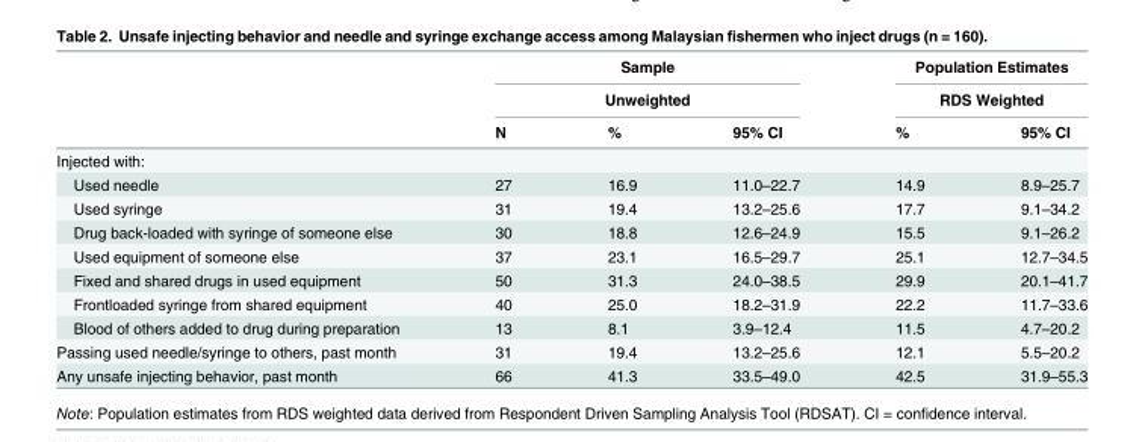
<table><thead><tr><td rowspan="3"></td><td rowspan="2" colspan="3">Sample Unweighted</td><td rowspan="2" colspan="2">Population Estimates RDS Weighted</td></tr><tr></tr><tr><td>N</td><td>%</td><td>95% CI</td><td>%</td><td>95% CI</td></tr></thead><tbody><tr><td colspan="6">Injected with:</td></tr><tr><td>Used needle</td><td>27</td><td>16.9</td><td>11.0–22.7</td><td>14.9</td><td>8.9–25.7</td></tr><tr><td>Used syringe</td><td>31</td><td>19.4</td><td>13.2–25.6</td><td>17.7</td><td>9.1–34.2</td></tr><tr><td>Drug back-loaded with syringe of someone else</td><td>30</td><td>18.8</td><td>12.6–24.9</td><td>15.5</td><td>9.1–26.2</td></tr><tr><td>Used equipment of someone else</td><td>37</td><td>23.1</td><td>16.5–29.7</td><td>25.1</td><td>12.7–34.5</td></tr><tr><td>Fixed and shared drugs in used equipment</td><td>50</td><td>31.3</td><td>24.0–38.5</td><td>29.9</td><td>20.1–41.7</td></tr><tr><td>Frontloaded syringe from shared equipment</td><td>40</td><td>25.0</td><td>18.2–31.9</td><td>22.2</td><td>11.7–33.6</td></tr><tr><td>Blood of others added to drug during preparation</td><td>13</td><td>8.1</td><td>3.9–12.4</td><td>11.5</td><td>4.7–20.2</td></tr><tr><td>Passing used needle/syringe to others, past month</td><td>31</td><td>19.4</td><td>13.2–25.6</td><td>12.1</td><td>5.5–20.2</td></tr><tr><td>Any unsafe injecting behavior, past month</td><td>66</td><td>41.3</td><td>33.5–49.0</td><td>42.5</td><td>31.9–55.3</td></tr></tbody></table>